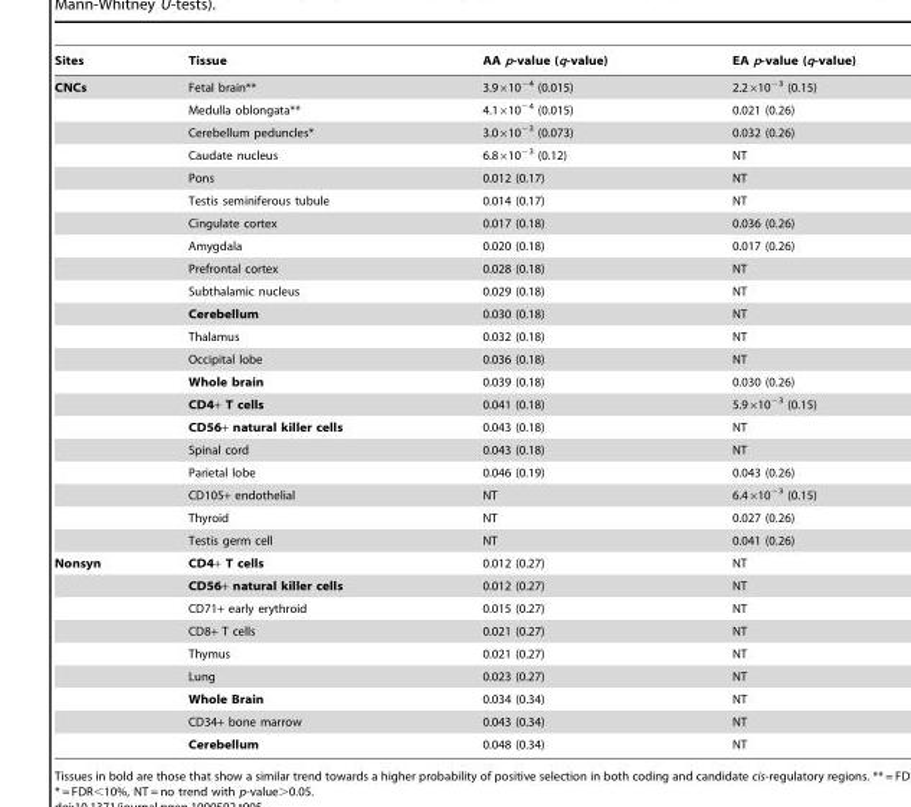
<table><thead><tr><td>Sites</td><td>Tissue</td><td>AA p-value (q-value)</td><td>EA p-value (q-value)</td></tr></thead><tbody><tr><td rowspan="21">CNCs</td><td>Fetal brain**</td><td>3.9×10<sup>−4</sup> (0.015)</td><td>2.2×10<sup>−3</sup> (0.15)</td></tr><tr><td>Medulla oblongata**</td><td>4.1×10<sup>−4</sup> (0.015)</td><td>0.021 (0.26)</td></tr><tr><td>Cerebellum peduncles*</td><td>3.0×10<sup>−3</sup> (0.073)</td><td>0.032 (0.26)</td></tr><tr><td>Caudate nucleus</td><td>6.8×10<sup>−3</sup> (0.12)</td><td>NT</td></tr><tr><td>Pons</td><td>0.012 (0.17)</td><td>NT</td></tr><tr><td>Testis seminiferous tubule</td><td>0.014 (0.17)</td><td>NT</td></tr><tr><td>Cingulate cortex</td><td>0.017 (0.18)</td><td>0.036 (0.26)</td></tr><tr><td>Amygdala</td><td>0.020 (0.18)</td><td>0.017 (0.26)</td></tr><tr><td>Prefrontal cortex</td><td>0.028 (0.18)</td><td>NT</td></tr><tr><td>Subthalamic nucleus</td><td>0.029 (0.18)</td><td>NT</td></tr><tr><td>Cerebellum</td><td>0.030 (0.18)</td><td>NT</td></tr><tr><td>Thalamus</td><td>0.032 (0.18)</td><td>NT</td></tr><tr><td>Occipital lobe</td><td>0.036 (0.18)</td><td>NT</td></tr><tr><td>Whole brain</td><td>0.039 (0.18)</td><td>0.030 (0.26)</td></tr><tr><td>CD4+ T cells</td><td>0.041 (0.18)</td><td>5.9×10<sup>−3</sup> (0.15)</td></tr><tr><td>CD56+ natural killer cells</td><td>0.043 (0.18)</td><td>NT</td></tr><tr><td>Spinal cord</td><td>0.043 (0.18)</td><td>NT</td></tr><tr><td>Parietal lobe</td><td>0.046 (0.19)</td><td>0.043 (0.26)</td></tr><tr><td>CD105+ endothelial</td><td>NT</td><td>6.4×10<sup>−3</sup> (0.15)</td></tr><tr><td>Thyroid</td><td>NT</td><td>0.027 (0.26)</td></tr><tr><td>Testis germ cell</td><td>NT</td><td>0.041 (0.26)</td></tr><tr><td rowspan="9">Nonsyn</td><td>CD4+ T cells</td><td>0.012 (0.27)</td><td>NT</td></tr><tr><td>CD56+ natural killer cells</td><td>0.012 (0.27)</td><td>NT</td></tr><tr><td>CD71+ early erythroid</td><td>0.015 (0.27)</td><td>NT</td></tr><tr><td>CD8+ T cells</td><td>0.021 (0.27)</td><td>NT</td></tr><tr><td>Thymus</td><td>0.021 (0.27)</td><td>NT</td></tr><tr><td>Lung</td><td>0.023 (0.27)</td><td>NT</td></tr><tr><td>Whole Brain</td><td>0.034 (0.34)</td><td>NT</td></tr><tr><td>CD34+ bone marrow</td><td>0.043 (0.34)</td><td>NT</td></tr><tr><td>Cerebellum</td><td>0.048 (0.34)</td><td>NT</td></tr></tbody></table>